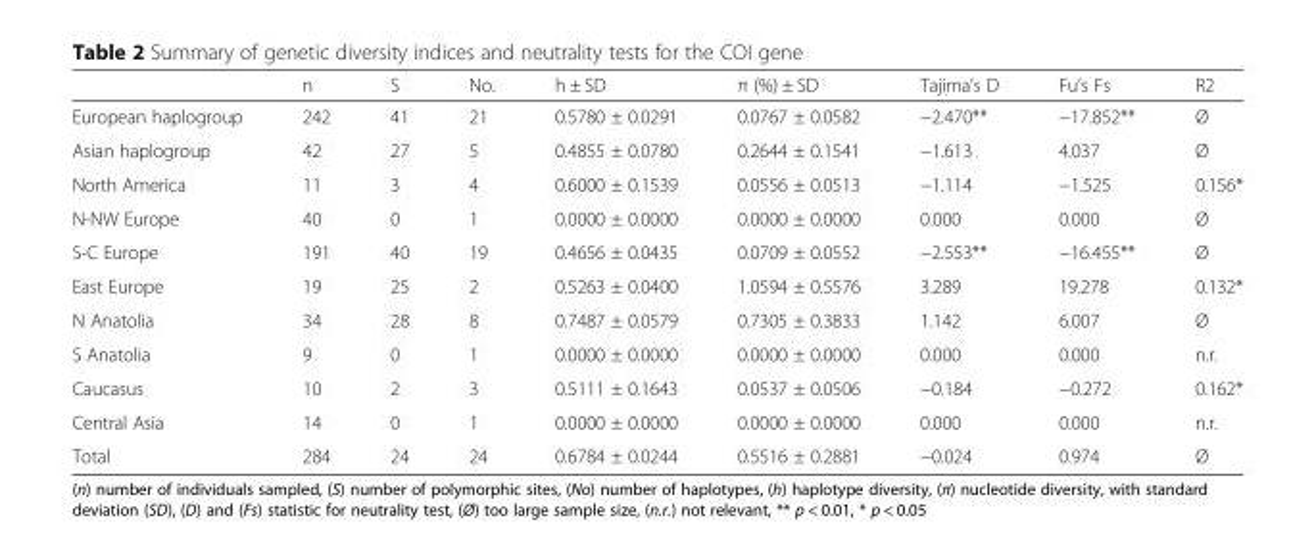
<table><thead><tr><td></td><td>n</td><td>S</td><td>No.</td><td>h ± SD</td><td>π (%) ± SD</td><td>Tajima’s D</td><td>Fu’s Fs</td><td>R2</td></tr></thead><tbody><tr><td>European haplogroup</td><td>242</td><td>41</td><td>21</td><td>0.5780 ± 0.0291</td><td>0.0767 ± 0.0582</td><td>−2.470**</td><td>−17.852**</td><td>Ø</td></tr><tr><td>Asian haplogroup</td><td>42</td><td>27</td><td>5</td><td>0.4855 ± 0.0780</td><td>0.2644 ± 0.1541</td><td>−1.613</td><td>4.037</td><td>Ø</td></tr><tr><td>North America</td><td>11</td><td>3</td><td>4</td><td>0.6000 ± 0.1539</td><td>0.0556 ± 0.0513</td><td>−1.114</td><td>−1.525</td><td>0.156*</td></tr><tr><td>N-NW Europe</td><td>40</td><td>0</td><td>1</td><td>0.0000 ± 0.0000</td><td>0.0000 ± 0.0000</td><td>0.000</td><td>0.000</td><td>Ø</td></tr><tr><td>S-C Europe</td><td>191</td><td>40</td><td>19</td><td>0.4656 ± 0.0435</td><td>0.0709 ± 0.0552</td><td>−2.553**</td><td>−16.455**</td><td>Ø</td></tr><tr><td>East Europe</td><td>19</td><td>25</td><td>2</td><td>0.5263 ± 0.0400</td><td>1.0594 ± 0.5576</td><td>3.289</td><td>19.278</td><td>0.132*</td></tr><tr><td>N Anatolia</td><td>34</td><td>28</td><td>8</td><td>0.7487 ± 0.0579</td><td>0.7305 ± 0.3833</td><td>1.142</td><td>6.007</td><td>Ø</td></tr><tr><td>S Anatolia</td><td>9</td><td>0</td><td>1</td><td>0.0000 ± 0.0000</td><td>0.0000 ± 0.0000</td><td>0.000</td><td>0.000</td><td>n.r.</td></tr><tr><td>Caucasus</td><td>10</td><td>2</td><td>3</td><td>0.5111 ± 0.1643</td><td>0.0537 ± 0.0506</td><td>−0.184</td><td>−0.272</td><td>0.162*</td></tr><tr><td>Central Asia</td><td>14</td><td>0</td><td>1</td><td>0.0000 ± 0.0000</td><td>0.0000 ± 0.0000</td><td>0.000</td><td>0.000</td><td>n.r.</td></tr><tr><td>Total</td><td>284</td><td>24</td><td>24</td><td>0.6784 ± 0.0244</td><td>0.5516 ± 0.2881</td><td>−0.024</td><td>0.974</td><td>Ø</td></tr></tbody></table>